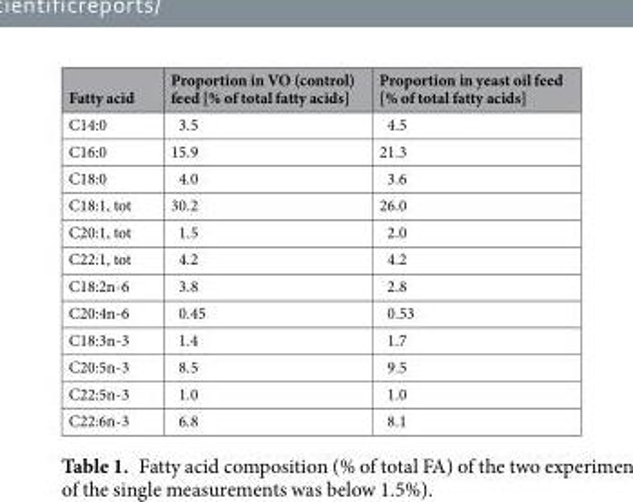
<table><thead><tr><td>Fatty acid</td><td>Proportion in VO (control) feed [% of total fatty acids]</td><td>Proportion in yeast oil feed [% of total fatty acids]</td></tr></thead><tbody><tr><td>C14:0</td><td>3.5</td><td>4.5</td></tr><tr><td>C16:0</td><td>15.9</td><td>21.3</td></tr><tr><td>C18:0</td><td>4.0</td><td>3.6</td></tr><tr><td>C18:1, tot</td><td>30.2</td><td>26.0</td></tr><tr><td>C20:1, tot</td><td>1.5</td><td>2.0</td></tr><tr><td>C22:1, tot</td><td>4.2</td><td>4.2</td></tr><tr><td>C18:2n-6</td><td>3.8</td><td>2.8</td></tr><tr><td>C20:4n-6</td><td>0.45</td><td>0.53</td></tr><tr><td>C18:3n-3</td><td>1.4</td><td>1.7</td></tr><tr><td>C20:5n-3</td><td>8.5</td><td>9.5</td></tr><tr><td>C22:5n-3</td><td>1.0</td><td>1.0</td></tr><tr><td>C22:6n-3</td><td>6.8</td><td>8.1</td></tr></tbody></table>